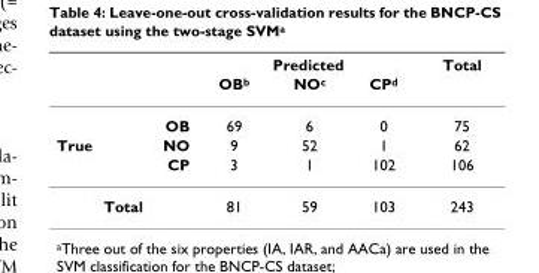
<table><thead><tr><td rowspan="2"></td><td rowspan="2"></td><td colspan="3">Predicted</td><td rowspan="2">Total</td></tr><tr><td>OBb</td><td>NOc</td><td>CPd</td></tr></thead><tbody><tr><td></td><td>OB</td><td>69</td><td>6</td><td>0</td><td>75</td></tr><tr><td rowspan="2">True</td><td>NO</td><td>9</td><td>52</td><td>1</td><td>62</td></tr><tr><td>CP</td><td>3</td><td>1</td><td>102</td><td>106</td></tr><tr><td colspan="2">Total</td><td>81</td><td>59</td><td>103</td><td>243</td></tr></tbody></table>